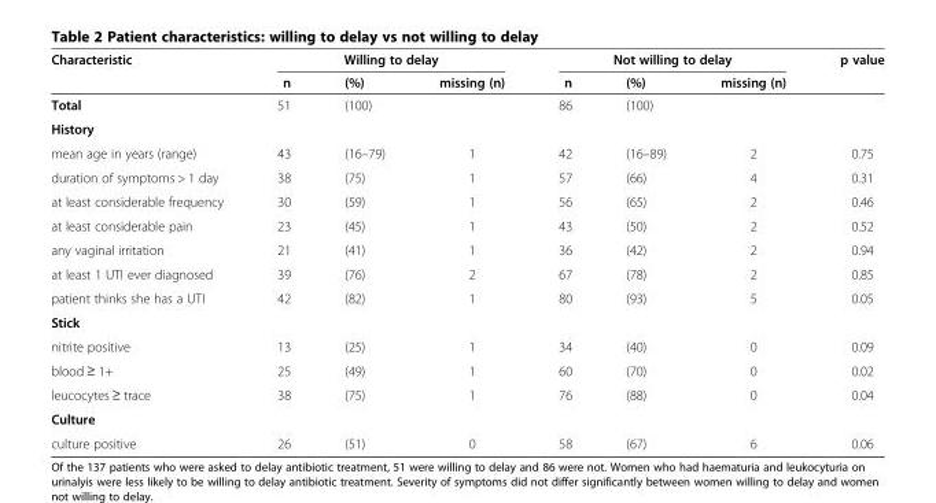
<table><thead><tr><td rowspan="2">Characteristic</td><td colspan="3">Willing to delay</td><td colspan="3">Not willing to delay</td><td rowspan="2">p value</td></tr><tr><td>n</td><td>(%)</td><td>missing (n)</td><td>n</td><td>(%)</td><td>missing (n)</td></tr></thead><tbody><tr><td>Total</td><td>51</td><td>(100)</td><td></td><td>86</td><td>(100)</td><td></td><td></td></tr><tr><td colspan="8">History</td></tr><tr><td>mean age in years (range)</td><td>43</td><td>(16–79)</td><td>1</td><td>42</td><td>(16–89)</td><td>2</td><td>0.75</td></tr><tr><td>duration of symptoms &gt; 1 day</td><td>38</td><td>(75)</td><td>1</td><td>57</td><td>(66)</td><td>4</td><td>0.31</td></tr><tr><td>at least considerable frequency</td><td>30</td><td>(59)</td><td>1</td><td>56</td><td>(65)</td><td>2</td><td>0.46</td></tr><tr><td>at least considerable pain</td><td>23</td><td>(45)</td><td>1</td><td>43</td><td>(50)</td><td>2</td><td>0.52</td></tr><tr><td>any vaginal irritation</td><td>21</td><td>(41)</td><td>1</td><td>36</td><td>(42)</td><td>2</td><td>0.94</td></tr><tr><td>at least 1 UTI ever diagnosed</td><td>39</td><td>(76)</td><td>2</td><td>67</td><td>(78)</td><td>2</td><td>0.85</td></tr><tr><td>patient thinks she has a UTI</td><td>42</td><td>(82)</td><td>1</td><td>80</td><td>(93)</td><td>5</td><td>0.05</td></tr><tr><td colspan="8">Stick</td></tr><tr><td>nitrite positive</td><td>13</td><td>(25)</td><td>1</td><td>34</td><td>(40)</td><td>0</td><td>0.09</td></tr><tr><td>blood ≥ 1+</td><td>25</td><td>(49)</td><td>1</td><td>60</td><td>(70)</td><td>0</td><td>0.02</td></tr><tr><td>leucocytes ≥ trace</td><td>38</td><td>(75)</td><td>1</td><td>76</td><td>(88)</td><td>0</td><td>0.04</td></tr><tr><td colspan="8">Culture</td></tr><tr><td>culture positive</td><td>26</td><td>(51)</td><td>0</td><td>58</td><td>(67)</td><td>6</td><td>0.06</td></tr></tbody></table>